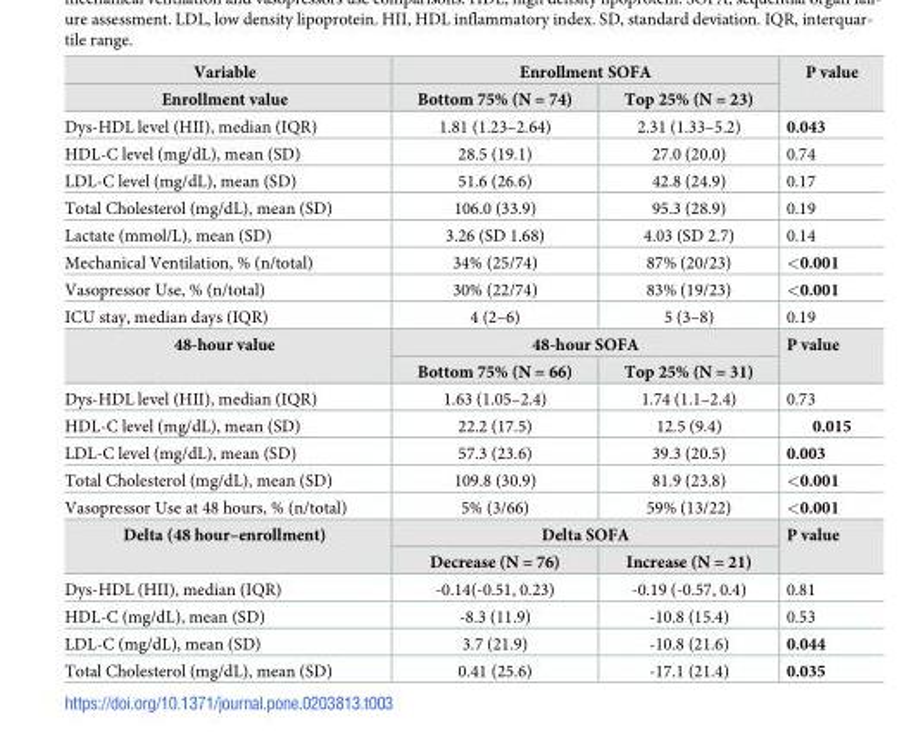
<table><tbody><tr><td>Variable</td><td colspan="2">Enrollment SOFA</td><td rowspan="2">P value</td></tr><tr><td>Enrollment value</td><td>Bottom 75% (N = 74)</td><td>Top 25% (N = 23)</td></tr><tr><td>Dys-HDL level (HII), median (IQR)</td><td>1.81 (1.23–2.64)</td><td>2.31 (1.33–5.2)</td><td>0.043</td></tr><tr><td>HDL-C level (mg/dL), mean (SD)</td><td>28.5 (19.1)</td><td>27.0 (20.0)</td><td>0.74</td></tr><tr><td>LDL-C level (mg/dL), mean (SD)</td><td>51.6 (26.6)</td><td>42.8 (24.9)</td><td>0.17</td></tr><tr><td>Total Cholesterol (mg/dL), mean (SD)</td><td>106.0 (33.9)</td><td>95.3 (28.9)</td><td>0.19</td></tr><tr><td>Lactate (mmol/L), mean (SD)</td><td>3.26 (SD 1.68)</td><td>4.03 (SD 2.7)</td><td>0.14</td></tr><tr><td>Mechanical Ventilation, % (n/total)</td><td>34% (25/74)</td><td>87% (20/23)</td><td>&lt;0.001</td></tr><tr><td>Vasopressor Use, % (n/total)</td><td>30% (22/74)</td><td>83% (19/23)</td><td>&lt;0.001</td></tr><tr><td>ICU stay, median days (IQR)</td><td>4 (2–6)</td><td>5 (3–8)</td><td>0.19</td></tr><tr><td rowspan="2">48-hour value</td><td colspan="2">48-hour SOFA</td><td rowspan="2">P value</td></tr><tr><td>Bottom 75% (N = 66)</td><td>Top 25% (N = 31)</td></tr><tr><td>Dys-HDL level (HII), median (IQR)</td><td>1.63 (1.05–2.4)</td><td>1.74 (1.1–2.4)</td><td>0.73</td></tr><tr><td>HDL-C level (mg/dL), mean (SD)</td><td>22.2 (17.5)</td><td>12.5 (9.4)</td><td>0.015</td></tr><tr><td>LDL-C level (mg/dL), mean (SD)</td><td>57.3 (23.6)</td><td>39.3 (20.5)</td><td>0.003</td></tr><tr><td>Total Cholesterol (mg/dL), mean (SD)</td><td>109.8 (30.9)</td><td>81.9 (23.8)</td><td>&lt;0.001</td></tr><tr><td>Vasopressor Use at 48 hours, % (n/total)</td><td>5% (3/66)</td><td>59% (13/22)</td><td>&lt;0.001</td></tr><tr><td rowspan="2">Delta (48 hour–enrollment)</td><td colspan="2">Delta SOFA</td><td rowspan="2">P value</td></tr><tr><td>Decrease (N = 76)</td><td>Increase (N = 21)</td></tr><tr><td>Dys-HDL (HII), median (IQR)</td><td>-0.14(-0.51, 0.23)</td><td>-0.19 (-0.57, 0.4)</td><td>0.81</td></tr><tr><td>HDL-C (mg/dL), mean (SD)</td><td>-8.3 (11.9)</td><td>-10.8 (15.4)</td><td>0.53</td></tr><tr><td>LDL-C (mg/dL), mean (SD)</td><td>3.7 (21.9)</td><td>-10.8 (21.6)</td><td>0.044</td></tr><tr><td>Total Cholesterol (mg/dL), mean (SD)</td><td>0.41 (25.6)</td><td>-17.1 (21.4)</td><td>0.035</td></tr></tbody></table>